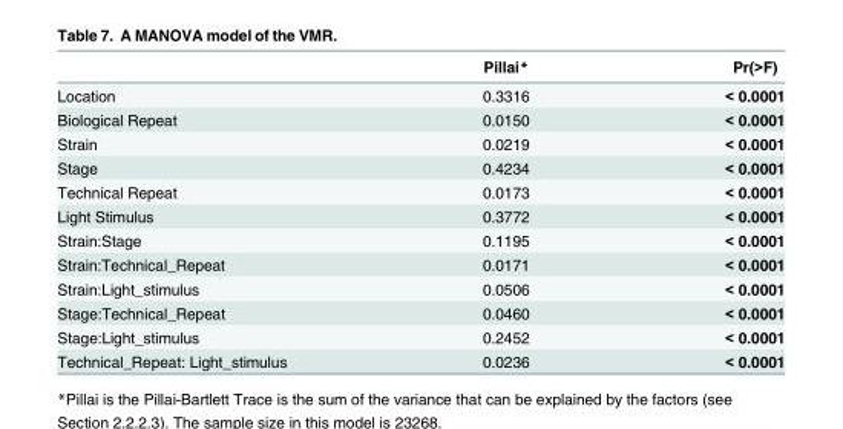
<table><thead><tr><td></td><td>Pillai*</td><td>Pr(&gt;F)</td></tr></thead><tbody><tr><td>Location</td><td>0.3316</td><td>&lt; 0.0001</td></tr><tr><td>Biological Repeat</td><td>0.0150</td><td>&lt; 0.0001</td></tr><tr><td>Strain</td><td>0.0219</td><td>&lt; 0.0001</td></tr><tr><td>Stage</td><td>0.4234</td><td>&lt; 0.0001</td></tr><tr><td>Technical Repeat</td><td>0.0173</td><td>&lt; 0.0001</td></tr><tr><td>Light Stimulus</td><td>0.3772</td><td>&lt; 0.0001</td></tr><tr><td>Strain:Stage</td><td>0.1195</td><td>&lt; 0.0001</td></tr><tr><td>Strain:Technical_Repeat</td><td>0.0171</td><td>&lt; 0.0001</td></tr><tr><td>Strain:Light_stimulus</td><td>0.0506</td><td>&lt; 0.0001</td></tr><tr><td>Stage:Technical_Repeat</td><td>0.0460</td><td>&lt; 0.0001</td></tr><tr><td>Stage:Light_stimulus</td><td>0.2452</td><td>&lt; 0.0001</td></tr><tr><td>Technical_Repeat: Light_stimulus</td><td>0.0236</td><td>&lt; 0.0001</td></tr></tbody></table>